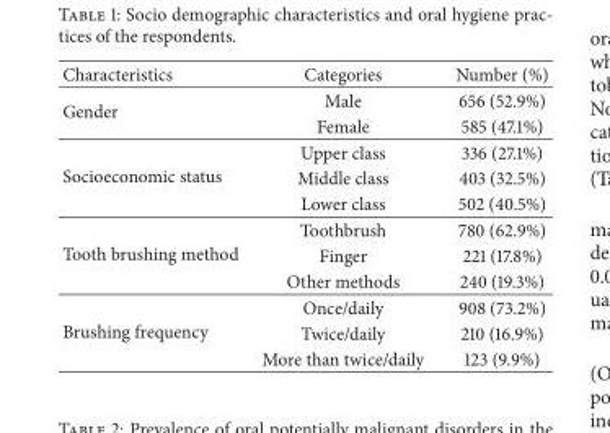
<table><thead><tr><td>Characteristics</td><td>Categories</td><td>Number (%)</td></tr></thead><tbody><tr><td rowspan="2">Gender</td><td>Male</td><td>656 (52.9%)</td></tr><tr><td>Female</td><td>585 (47.1%)</td></tr><tr><td rowspan="3">Socioeconomic status</td><td>Upper class</td><td>336 (27.1%)</td></tr><tr><td>Middle class</td><td>403 (32.5%)</td></tr><tr><td>Lower class</td><td>502 (40.5%)</td></tr><tr><td rowspan="3">Tooth brushing method</td><td>Toothbrush</td><td>780 (62.9%)</td></tr><tr><td>Finger</td><td>221 (17.8%)</td></tr><tr><td>Other methods</td><td>240 (19.3%)</td></tr><tr><td rowspan="3">Brushing frequency</td><td>Once/daily</td><td>908 (73.2%)</td></tr><tr><td>Twice/daily</td><td>210 (16.9%)</td></tr><tr><td>More than twice/daily</td><td>123 (9.9%)</td></tr></tbody></table>